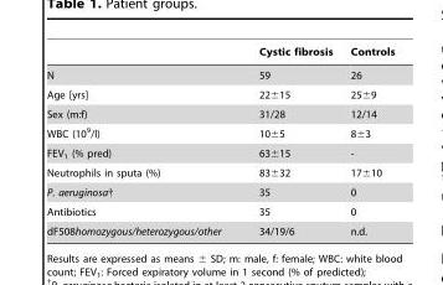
<table><thead><tr><td></td><td>Cystic fibrosis</td><td>Controls</td></tr></thead><tbody><tr><td>N</td><td>59</td><td>26</td></tr><tr><td>Age [yrs]</td><td>22±15</td><td>25±9</td></tr><tr><td>Sex (m:f)</td><td>31/28</td><td>12/14</td></tr><tr><td>WBC (10<sup>9</sup>/l)</td><td>10±5</td><td>8±3</td></tr><tr><td>FEV<sub>1</sub> (% pred)</td><td>63±15</td><td>-</td></tr><tr><td>Neutrophils in sputa (%)</td><td>83±32</td><td>17±10</td></tr><tr><td>P. aeruginosa†</td><td>35</td><td>0</td></tr><tr><td>Antibiotics</td><td>35</td><td>0</td></tr><tr><td>dF508homozygous/heterozygous/other</td><td>34/19/6</td><td>n.d.</td></tr></tbody></table>